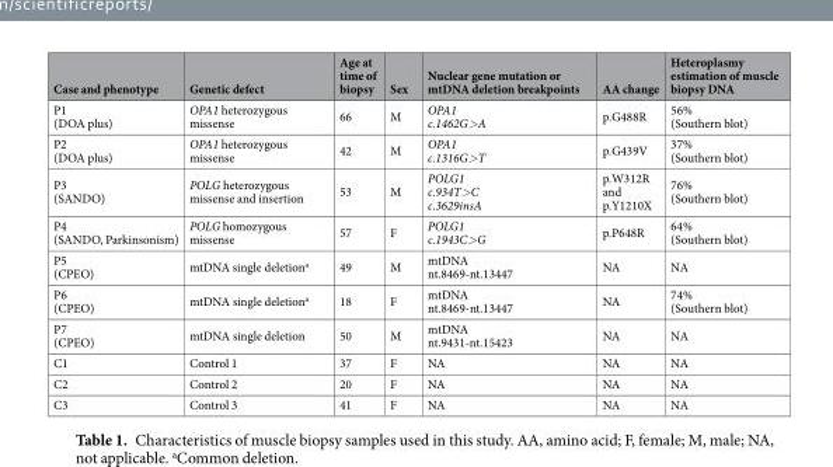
<table><thead><tr><td>Case and phenotype</td><td>Genetic defect</td><td>Age at time of biopsy</td><td>Sex</td><td>Nuclear gene mutation or mtDNA deletion breakpoints</td><td>AA change</td><td>Heteroplasmy estimation of muscle biopsy DNA</td></tr></thead><tbody><tr><td>P1 (DOA plus)</td><td>OPA1 heterozygous missense</td><td>66</td><td>M</td><td>OPA1 c.1462G&gt;A</td><td>p.G488R</td><td>56% (Southern blot)</td></tr><tr><td>P2 (DOA plus)</td><td>OPA1 heterozygous missense</td><td>42</td><td>M</td><td>OPA1 c.1316G&gt;T</td><td>p.G439V</td><td>37% (Southern blot)</td></tr><tr><td>P3 (SANDO)</td><td>POLG heterozygous missense and insertion</td><td>53</td><td>M</td><td>POLG1 c.934T&gt;C c.3629insA</td><td>p.W312R and p.Y1210X</td><td>76% (Southern blot)</td></tr><tr><td>P4 (SANDO, Parkinsonism)</td><td>POLG homozygous missense</td><td>57</td><td>F</td><td>POLG1 c.1943C&gt;G</td><td>p.P648R</td><td>64% (Southern blot)</td></tr><tr><td>P5 (CPEO)</td><td>mtDNA single deletion<sup>a</sup></td><td>49</td><td>M</td><td>mtDNA nt.8469-nt.13447</td><td>NA</td><td>NA</td></tr><tr><td>P6 (CPEO)</td><td>mtDNA single deletion<sup>a</sup></td><td>18</td><td>F</td><td>mtDNA nt.8469-nt.13447</td><td>NA</td><td>74% (Southern blot)</td></tr><tr><td>P7 (CPEO)</td><td>mtDNA single deletion</td><td>50</td><td>M</td><td>mtDNA nt.9431-nt.15423</td><td>NA</td><td>NA</td></tr><tr><td>C1</td><td>Control 1</td><td>37</td><td>F</td><td>NA</td><td>NA</td><td>NA</td></tr><tr><td>C2</td><td>Control 2</td><td>20</td><td>F</td><td>NA</td><td>NA</td><td>NA</td></tr><tr><td>C3</td><td>Control 3</td><td>41</td><td>F</td><td>NA</td><td>NA</td><td>NA</td></tr></tbody></table>